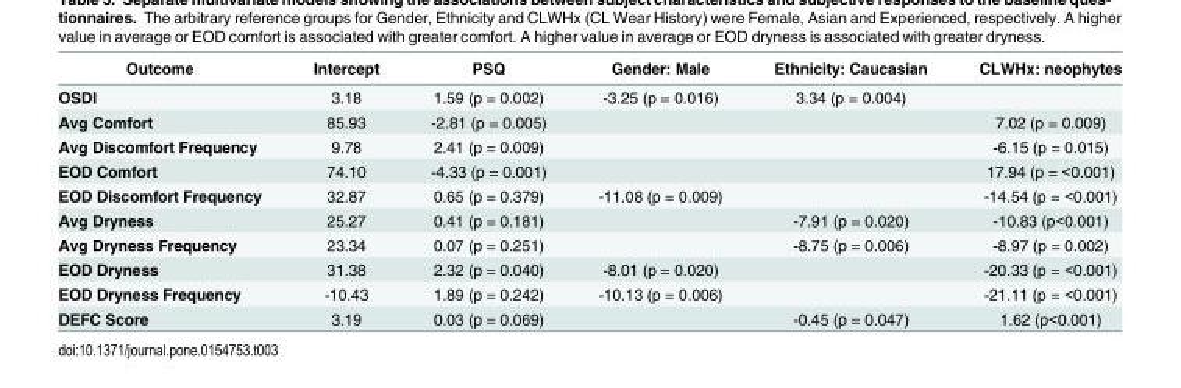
<table><thead><tr><td>Outcome</td><td>Intercept</td><td>PSQ</td><td>Gender: Male</td><td>Ethnicity: Caucasian</td><td>CLWHx: neophytes</td></tr></thead><tbody><tr><td>OSDI</td><td>3.18</td><td>1.59 (p = 0.002)</td><td>-3.25 (p = 0.016)</td><td>3.34 (p = 0.004)</td><td></td></tr><tr><td>Avg Comfort</td><td>85.93</td><td>-2.81 (p = 0.005)</td><td></td><td></td><td>7.02 (p = 0.009)</td></tr><tr><td>Avg Discomfort Frequency</td><td>9.78</td><td>2.41 (p = 0.009)</td><td></td><td></td><td>-6.15 (p = 0.015)</td></tr><tr><td>EOD Comfort</td><td>74.10</td><td>-4.33 (p = 0.001)</td><td></td><td></td><td>17.94 (p = &lt;0.001)</td></tr><tr><td>EOD Discomfort Frequency</td><td>32.87</td><td>0.65 (p = 0.379)</td><td>-11.08 (p = 0.009)</td><td></td><td>-14.54 (p = &lt;0.001)</td></tr><tr><td>Avg Dryness</td><td>25.27</td><td>0.41 (p = 0.181)</td><td></td><td>-7.91 (p = 0.020)</td><td>-10.83 (p&lt;0.001)</td></tr><tr><td>Avg Dryness Frequency</td><td>23.34</td><td>0.07 (p = 0.251)</td><td></td><td>-8.75 (p = 0.006)</td><td>-8.97 (p = 0.002)</td></tr><tr><td>EOD Dryness</td><td>31.38</td><td>2.32 (p = 0.040)</td><td>-8.01 (p = 0.020)</td><td></td><td>-20.33 (p = &lt;0.001)</td></tr><tr><td>EOD Dryness Frequency</td><td>-10.43</td><td>1.89 (p = 0.242)</td><td>-10.13 (p = 0.006)</td><td></td><td>-21.11 (p = &lt;0.001)</td></tr><tr><td>DEFC Score</td><td>3.19</td><td>0.03 (p = 0.069)</td><td></td><td>-0.45 (p = 0.047)</td><td>1.62 (p&lt;0.001)</td></tr></tbody></table>